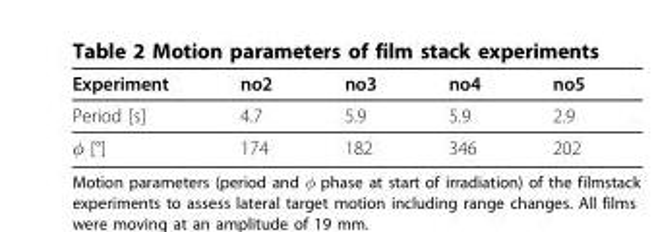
<table><thead><tr><td>Experiment</td><td>no2</td><td>no3</td><td>no4</td><td>no5</td></tr></thead><tbody><tr><td>Period [s]</td><td>4.7</td><td>5.9</td><td>5.9</td><td>2.9</td></tr><tr><td>φ [°]</td><td>174</td><td>182</td><td>346</td><td>202</td></tr></tbody></table>